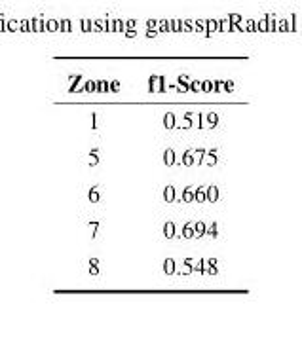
<table><thead><tr><td>Zone</td><td>f1-Score</td></tr></thead><tbody><tr><td>1</td><td>0.519</td></tr><tr><td>5</td><td>0.675</td></tr><tr><td>6</td><td>0.660</td></tr><tr><td>7</td><td>0.694</td></tr><tr><td>8</td><td>0.548</td></tr></tbody></table>